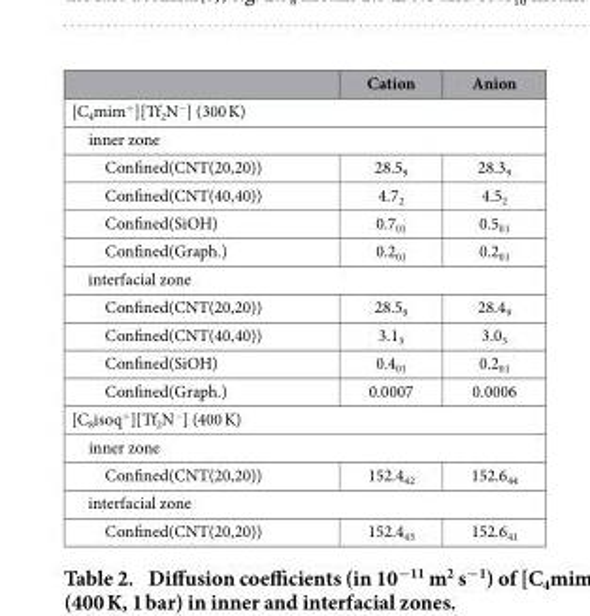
<table><thead><tr><td></td><td>Cation</td><td>Anion</td></tr></thead><tbody><tr><td colspan="3">[C<sub>4</sub>mim<sup>+</sup>][Tf<sub>2</sub>N<sup>−</sup>] (300 K)</td></tr><tr><td colspan="3">inner zone</td></tr><tr><td>Confined(CNT(20,20))</td><td>28.5<sub>9</sub></td><td>28.3<sub>9</sub></td></tr><tr><td>Confined(CNT(40,40))</td><td>4.7<sub>2</sub></td><td>4.5<sub>2</sub></td></tr><tr><td>Confined(SiOH)</td><td>0.7<sub>01</sub></td><td>0.5<sub>01</sub></td></tr><tr><td>Confined(Graph.)</td><td>0.2<sub>01</sub></td><td>0.2<sub>01</sub></td></tr><tr><td colspan="3">interfacial zone</td></tr><tr><td>Confined(CNT(20,20))</td><td>28.5<sub>9</sub></td><td>28.4<sub>9</sub></td></tr><tr><td>Confined(CNT(40,40))</td><td>3.1<sub>3</sub></td><td>3.0<sub>3</sub></td></tr><tr><td>Confined(SiOH)</td><td>0.4<sub>01</sub></td><td>0.2<sub>01</sub></td></tr><tr><td>Confined(Graph.)</td><td>0.0007</td><td>0.0006</td></tr><tr><td colspan="3">[C<sub>8</sub>isoq<sup>+</sup>][Tf<sub>2</sub>N<sup>−</sup>] (400 K)</td></tr><tr><td colspan="3">inner zone</td></tr><tr><td>Confined(CNT(20,20))</td><td>152.4<sub>42</sub></td><td>152.6<sub>44</sub></td></tr><tr><td colspan="3">interfacial zone</td></tr><tr><td>Confined(CNT(20,20))</td><td>152.4<sub>43</sub></td><td>152.6<sub>41</sub></td></tr></tbody></table>